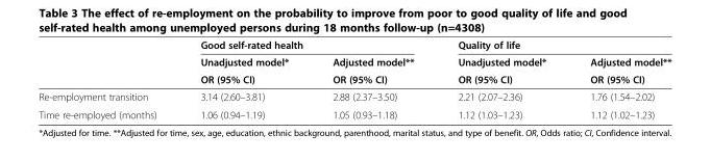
<table><thead><tr><td rowspan="3"></td><td colspan="2">Good self-rated health</td><td colspan="2">Quality of life</td></tr><tr><td rowspan="2">Unadjusted model* OR (95% CI)</td><td rowspan="2">Adjusted model** OR (95% CI)</td><td rowspan="2">Unadjusted model* OR (95% CI)</td><td rowspan="2">Adjusted model** OR (95% CI)</td></tr><tr></tr></thead><tbody><tr><td>Re-employment transition</td><td>3.14 (2.60–3.81)</td><td>2.88 (2.37–3.50)</td><td>2.21 (2.07–2.36)</td><td>1.76 (1.54–2.02)</td></tr><tr><td>Time re-employed (months)</td><td>1.06 (0.94–1.19)</td><td>1.05 (0.93–1.18)</td><td>1.12 (1.03–1.23)</td><td>1.12 (1.02–1.23)</td></tr></tbody></table>